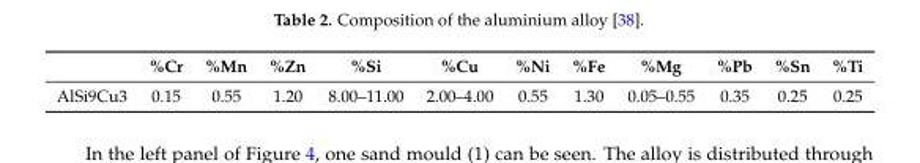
<table><thead><tr><td></td><td>%Cr</td><td>%Mn</td><td>%Zn</td><td>%Si</td><td>%Cu</td><td>%Ni</td><td>%Fe</td><td>%Mg</td><td>%Pb</td><td>%Sn</td><td>%Ti</td></tr></thead><tbody><tr><td>AlSi9Cu3</td><td>0.15</td><td>0.55</td><td>1.20</td><td>8.00–11.00</td><td>2.00–4.00</td><td>0.55</td><td>1.30</td><td>0.05–0.55</td><td>0.35</td><td>0.25</td><td>0.25</td></tr></tbody></table>